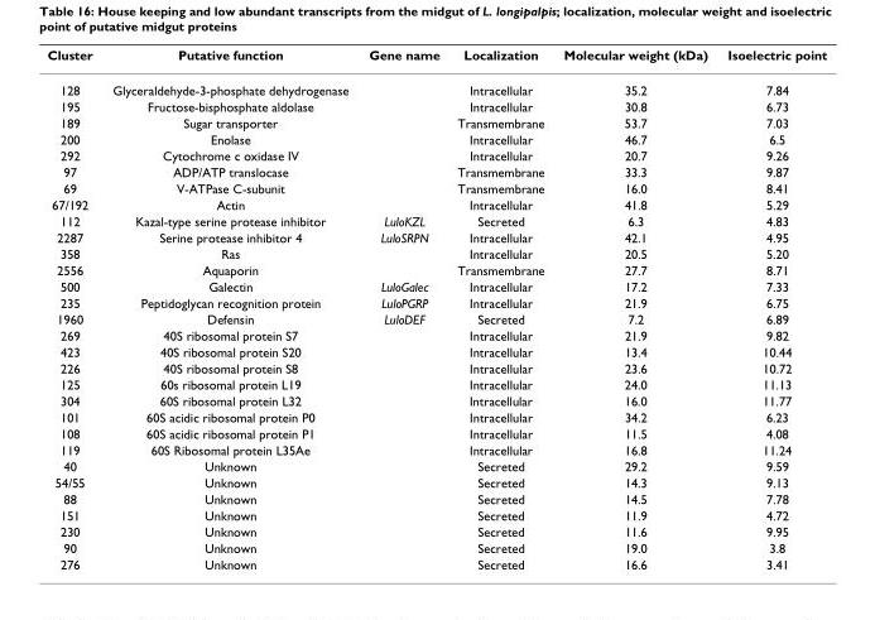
<table><thead><tr><td>Cluster</td><td>Putative function</td><td>Gene name</td><td>Localization</td><td>Molecular weight (kDa)</td><td>Isoelectric point</td></tr></thead><tbody><tr><td>128</td><td>Glyceraldehyde-3-phosphate dehydrogenase</td><td></td><td>Intracellular</td><td>35.2</td><td>7.84</td></tr><tr><td>195</td><td>Fructose-bisphosphate aldolase</td><td></td><td>Intracellular</td><td>30.8</td><td>6.73</td></tr><tr><td>189</td><td>Sugar transporter</td><td></td><td>Transmembrane</td><td>53.7</td><td>7.03</td></tr><tr><td>200</td><td>Enolase</td><td></td><td>Intracellular</td><td>46.7</td><td>6.5</td></tr><tr><td>292</td><td>Cytochrome c oxidase IV</td><td></td><td>Intracellular</td><td>20.7</td><td>9.26</td></tr><tr><td>97</td><td>ADP/ATP translocase</td><td></td><td>Transmembrane</td><td>33.3</td><td>9.87</td></tr><tr><td>69</td><td>V-ATPase C-subunit</td><td></td><td>Transmembrane</td><td>16.0</td><td>8.41</td></tr><tr><td>67/192</td><td>Actin</td><td></td><td>Intracellular</td><td>41.8</td><td>5.29</td></tr><tr><td>112</td><td>Kazal-type serine protease inhibitor</td><td>LuloKZL</td><td>Secreted</td><td>6.3</td><td>4.83</td></tr><tr><td>2287</td><td>Serine protease inhibitor 4</td><td>LuloSRPN</td><td>Intracellular</td><td>42.1</td><td>4.95</td></tr><tr><td>358</td><td>Ras</td><td></td><td>Intracellular</td><td>20.5</td><td>5.20</td></tr><tr><td>2556</td><td>Aquaporin</td><td></td><td>Transmembrane</td><td>27.7</td><td>8.71</td></tr><tr><td>500</td><td>Galectin</td><td>LuloGalec</td><td>Intracellular</td><td>17.2</td><td>7.33</td></tr><tr><td>235</td><td>Peptidoglycan recognition protein</td><td>LuloPGRP</td><td>Intracellular</td><td>21.9</td><td>6.75</td></tr><tr><td>1960</td><td>Defensin</td><td>LuloDEF</td><td>Secreted</td><td>7.2</td><td>6.89</td></tr><tr><td>269</td><td>40S ribosomal protein S7</td><td></td><td>Intracellular</td><td>21.9</td><td>9.82</td></tr><tr><td>423</td><td>40S ribosomal protein S20</td><td></td><td>Intracellular</td><td>13.4</td><td>10.44</td></tr><tr><td>226</td><td>40S ribosomal protein S8</td><td></td><td>Intracellular</td><td>23.6</td><td>10.72</td></tr><tr><td>125</td><td>60s ribosomal protein L19</td><td></td><td>Intracellular</td><td>24.0</td><td>11.13</td></tr><tr><td>304</td><td>60S ribosomal protein L32</td><td></td><td>Intracellular</td><td>16.0</td><td>11.77</td></tr><tr><td>101</td><td>60S acidic ribosomal protein P0</td><td></td><td>Intracellular</td><td>34.2</td><td>6.23</td></tr><tr><td>108</td><td>60S acidic ribosomal protein P1</td><td></td><td>Intracellular</td><td>11.5</td><td>4.08</td></tr><tr><td>119</td><td>60S Ribosomal protein L35Ae</td><td></td><td>Intracellular</td><td>16.8</td><td>11.24</td></tr><tr><td>40</td><td>Unknown</td><td></td><td>Secreted</td><td>29.2</td><td>9.59</td></tr><tr><td>54/55</td><td>Unknown</td><td></td><td>Secreted</td><td>14.3</td><td>9.13</td></tr><tr><td>88</td><td>Unknown</td><td></td><td>Secreted</td><td>14.5</td><td>7.78</td></tr><tr><td>151</td><td>Unknown</td><td></td><td>Secreted</td><td>11.9</td><td>4.72</td></tr><tr><td>230</td><td>Unknown</td><td></td><td>Secreted</td><td>11.6</td><td>9.95</td></tr><tr><td>90</td><td>Unknown</td><td></td><td>Secreted</td><td>19.0</td><td>3.8</td></tr><tr><td>276</td><td>Unknown</td><td></td><td>Secreted</td><td>16.6</td><td>3.41</td></tr></tbody></table>